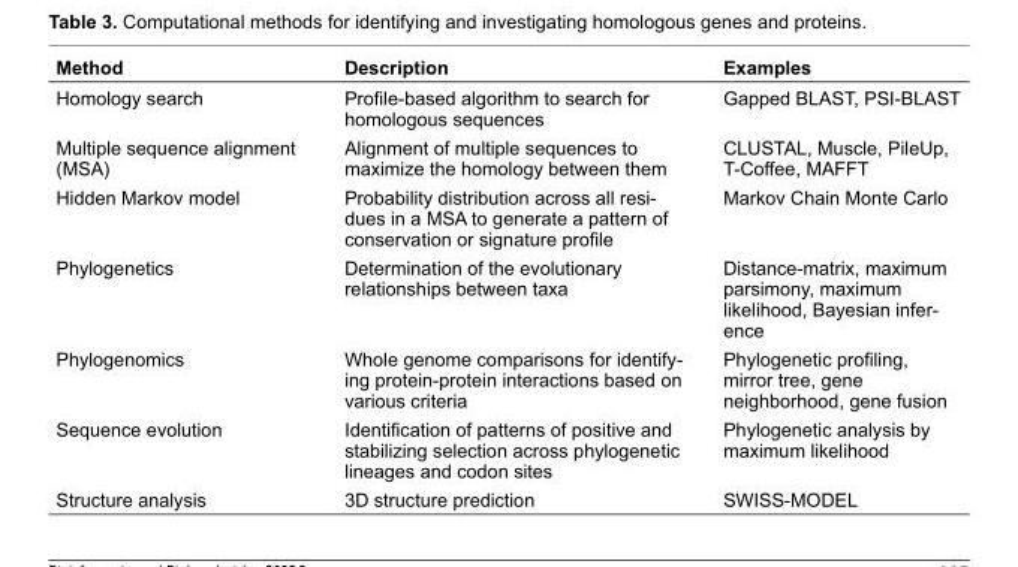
<table><thead><tr><td>Method</td><td>Description</td><td>Examples</td></tr></thead><tbody><tr><td>Homology search</td><td>Profi le-based algorithm to search for homologous sequences</td><td>Gapped BLAST, PSI-BLAST</td></tr><tr><td>Multiple sequence alignment (MSA)</td><td>Alignment of multiple sequences to maximize the homology between them</td><td>CLUSTAL, Muscle, PileUp, T-Coffee, MAFFT</td></tr><tr><td>Hidden Markov model</td><td>Probability distribution across all resi- dues in a MSA to generate a pattern of conservation or signature profi le</td><td>Markov Chain Monte Carlo</td></tr><tr><td>Phylogenetics</td><td>Determination of the evolutionary relationships between taxa</td><td>Distance-matrix, maximum parsimony, maximum likelihood, Bayesian infer- ence</td></tr><tr><td>Phylogenomics</td><td>Whole genome comparisons for identify- ing protein-protein interactions based on various criteria</td><td>Phylogenetic profi ling, mirror tree, gene neighborhood, gene fusion</td></tr><tr><td>Sequence evolution</td><td>Identifi cation of patterns of positive and stabilizing selection across phylogenetic lineages and codon sites</td><td>Phylogenetic analysis by maximum likelihood</td></tr><tr><td>Structure analysis</td><td>3D structure prediction</td><td>SWISS-MODEL</td></tr></tbody></table>